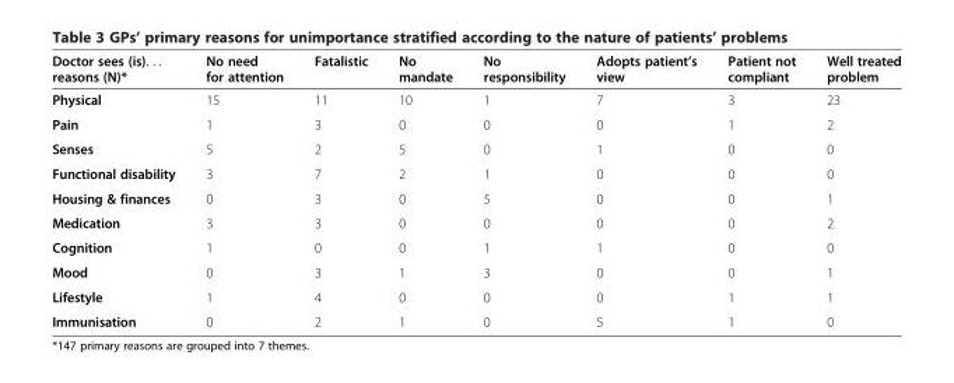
<table><thead><tr><td>Doctor sees (is). . . reasons (N)*</td><td>No need for attention</td><td>Fatalistic</td><td>No mandate</td><td>No responsibility</td><td>Adopts patient’s view</td><td>Patient not compliant</td><td>Well treated problem</td></tr></thead><tbody><tr><td>Physical</td><td>15</td><td>11</td><td>10</td><td>1</td><td>7</td><td>3</td><td>23</td></tr><tr><td>Pain</td><td>1</td><td>3</td><td>0</td><td>0</td><td>0</td><td>1</td><td>2</td></tr><tr><td>Senses</td><td>5</td><td>2</td><td>5</td><td>0</td><td>1</td><td>0</td><td>0</td></tr><tr><td>Functional disability</td><td>3</td><td>7</td><td>2</td><td>1</td><td>0</td><td>0</td><td>0</td></tr><tr><td>Housing &amp; finances</td><td>0</td><td>3</td><td>0</td><td>5</td><td>0</td><td>0</td><td>1</td></tr><tr><td>Medication</td><td>3</td><td>3</td><td>0</td><td>0</td><td>0</td><td>0</td><td>2</td></tr><tr><td>Cognition</td><td>1</td><td>0</td><td>0</td><td>1</td><td>1</td><td>0</td><td>0</td></tr><tr><td>Mood</td><td>0</td><td>3</td><td>1</td><td>3</td><td>0</td><td>0</td><td>1</td></tr><tr><td>Lifestyle</td><td>1</td><td>4</td><td>0</td><td>0</td><td>0</td><td>1</td><td>1</td></tr><tr><td>Immunisation</td><td>0</td><td>2</td><td>1</td><td>0</td><td>5</td><td>1</td><td>0</td></tr></tbody></table>